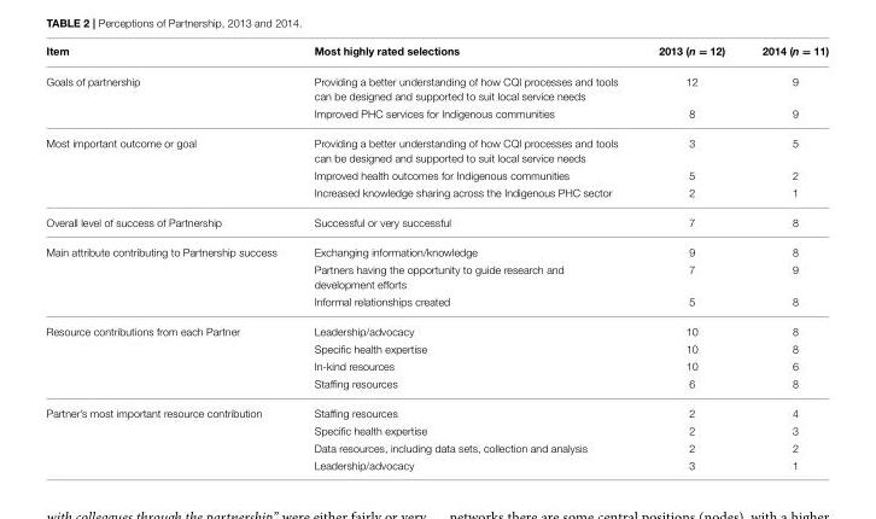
<table><thead><tr><td>Item</td><td>Most highly rated selections</td><td>2013 (n = 12)</td><td>2014 (n = 11)</td></tr></thead><tbody><tr><td rowspan="2">Goals of partnership</td><td>Providing a better understanding of how CQI processes and tools can be designed and supported to suit local service needs</td><td>12</td><td>9</td></tr><tr><td>Improved PHC services for Indigenous communities</td><td>8</td><td>9</td></tr><tr><td rowspan="3">Most important outcome or goal</td><td>Providing a better understanding of how CQI processes and tools can be designed and supported to suit local service needs</td><td>3</td><td>5</td></tr><tr><td>Improved health outcomes for Indigenous communities</td><td>5</td><td>2</td></tr><tr><td>Increased knowledge sharing across the Indigenous PHC sector</td><td>2</td><td>1</td></tr><tr><td>Overall level of success of Partnership</td><td>Successful or very successful</td><td>7</td><td>8</td></tr><tr><td rowspan="3">Main attribute contributing to Partnership success</td><td>Exchanging information/knowledge</td><td>9</td><td>8</td></tr><tr><td>Partners having the opportunity to guide research and development efforts</td><td>7</td><td>9</td></tr><tr><td>Informal relationships created</td><td>5</td><td>8</td></tr><tr><td rowspan="4">Resource contributions from each Partner</td><td>Leadership/advocacy</td><td>10</td><td>8</td></tr><tr><td>Specific health expertise</td><td>10</td><td>8</td></tr><tr><td>In-kind resources</td><td>10</td><td>6</td></tr><tr><td>Staffing resources</td><td>6</td><td>8</td></tr><tr><td rowspan="4">Partner’s most important resource contribution</td><td>Staffing resources</td><td>2</td><td>4</td></tr><tr><td>Specific health expertise</td><td>2</td><td>3</td></tr><tr><td>Data resources, including data sets, collection and analysis</td><td>2</td><td>2</td></tr><tr><td>Leadership/advocacy</td><td>3</td><td>1</td></tr></tbody></table>